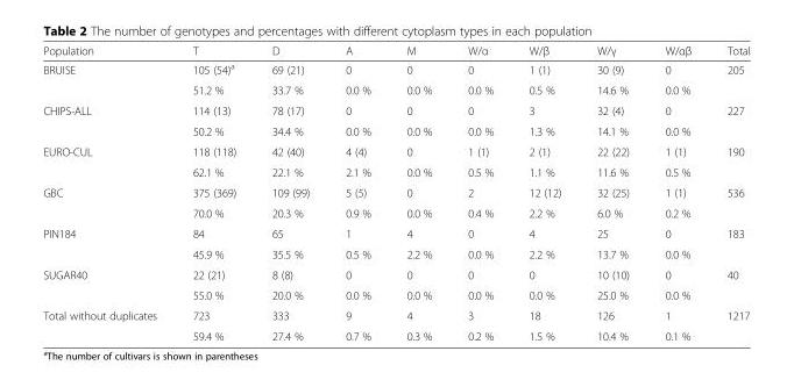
<table><thead><tr><td>Population</td><td>T</td><td>D</td><td>A</td><td>M</td><td>W/α</td><td>W/β</td><td>W/γ</td><td>W/αβ</td><td>Total</td></tr></thead><tbody><tr><td rowspan="2">BRUISE</td><td>105 (54)<sup>a</sup></td><td>69 (21)</td><td>0</td><td>0</td><td>0</td><td>1 (1)</td><td>30 (9)</td><td>0</td><td>205</td></tr><tr><td>51.2 %</td><td>33.7 %</td><td>0.0 %</td><td>0.0 %</td><td>0.0 %</td><td>0.5 %</td><td>14.6 %</td><td>0.0 %</td><td></td></tr><tr><td rowspan="2">CHIPS-ALL</td><td>114 (13)</td><td>78 (17)</td><td>0</td><td>0</td><td>0</td><td>3</td><td>32 (4)</td><td>0</td><td>227</td></tr><tr><td>50.2 %</td><td>34.4 %</td><td>0.0 %</td><td>0.0 %</td><td>0.0 %</td><td>1.3 %</td><td>14.1 %</td><td>0.0 %</td><td></td></tr><tr><td rowspan="2">EURO-CUL</td><td>118 (118)</td><td>42 (40)</td><td>4 (4)</td><td>0</td><td>1 (1)</td><td>2 (1)</td><td>22 (22)</td><td>1 (1)</td><td>190</td></tr><tr><td>62.1 %</td><td>22.1 %</td><td>2.1 %</td><td>0.0 %</td><td>0.5 %</td><td>1.1 %</td><td>11.6 %</td><td>0.5 %</td><td></td></tr><tr><td rowspan="2">GBC</td><td>375 (369)</td><td>109 (99)</td><td>5 (5)</td><td>0</td><td>2</td><td>12 (12)</td><td>32 (25)</td><td>1 (1)</td><td>536</td></tr><tr><td>70.0 %</td><td>20.3 %</td><td>0.9 %</td><td>0.0 %</td><td>0.4 %</td><td>2.2 %</td><td>6.0 %</td><td>0.2 %</td><td></td></tr><tr><td rowspan="2">PIN184</td><td>84</td><td>65</td><td>1</td><td>4</td><td>0</td><td>4</td><td>25</td><td>0</td><td>183</td></tr><tr><td>45.9 %</td><td>35.5 %</td><td>0.5 %</td><td>2.2 %</td><td>0.0 %</td><td>2.2 %</td><td>13.7 %</td><td>0.0 %</td><td></td></tr><tr><td rowspan="2">SUGAR40</td><td>22 (21)</td><td>8 (8)</td><td>0</td><td>0</td><td>0</td><td>0</td><td>10 (10)</td><td>0</td><td>40</td></tr><tr><td>55.0 %</td><td>20.0 %</td><td>0.0 %</td><td>0.0 %</td><td>0.0 %</td><td>0.0 %</td><td>25.0 %</td><td>0.0 %</td><td></td></tr><tr><td rowspan="2">Total without duplicates</td><td>723</td><td>333</td><td>9</td><td>4</td><td>3</td><td>18</td><td>126</td><td>1</td><td>1217</td></tr><tr><td>59.4 %</td><td>27.4 %</td><td>0.7 %</td><td>0.3 %</td><td>0.2 %</td><td>1.5 %</td><td>10.4 %</td><td>0.1 %</td><td></td></tr></tbody></table>